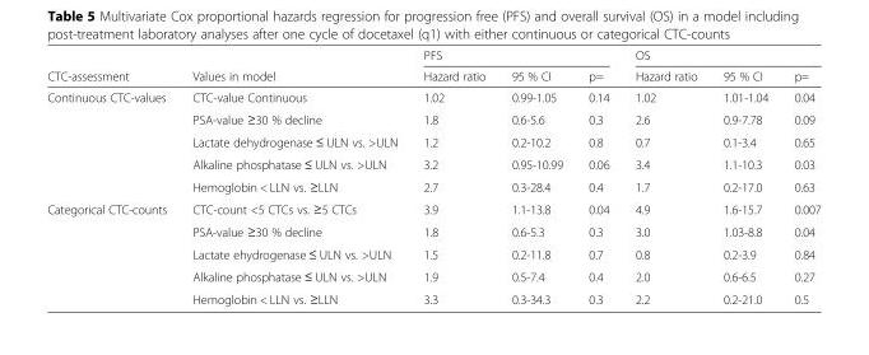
<table><thead><tr><td rowspan="2">CTC-assessment</td><td rowspan="2">Values in model</td><td colspan="3">PFS</td><td colspan="3">OS</td></tr><tr><td>Hazard ratio</td><td>95 % CI</td><td>p=</td><td>Hazard ratio</td><td>95 % CI</td><td>p=</td></tr></thead><tbody><tr><td rowspan="5">Continuous CTC-values</td><td>CTC-value Continuous</td><td>1.02</td><td>0.99-1.05</td><td>0.14</td><td>1.02</td><td>1.01-1.04</td><td>0.04</td></tr><tr><td>PSA-value ≥30 % decline</td><td>1.8</td><td>0.6-5.6</td><td>0.3</td><td>2.6</td><td>0.9-7.78</td><td>0.09</td></tr><tr><td>Lactate dehydrogenase ≤ ULN vs. &gt;ULN</td><td>1.2</td><td>0.2-10.2</td><td>0.8</td><td>0.7</td><td>0.1-3.4</td><td>0.65</td></tr><tr><td>Alkaline phosphatase ≤ ULN vs. &gt;ULN</td><td>3.2</td><td>0.95-10.99</td><td>0.06</td><td>3.4</td><td>1.1-10.3</td><td>0.03</td></tr><tr><td>Hemoglobin &lt; LLN vs. ≥LLN</td><td>2.7</td><td>0.3-28.4</td><td>0.4</td><td>1.7</td><td>0.2-17.0</td><td>0.63</td></tr><tr><td rowspan="5">Categorical CTC-counts</td><td>CTC-count &lt;5 CTCs vs. ≥5 CTCs</td><td>3.9</td><td>1.1-13.8</td><td>0.04</td><td>4.9</td><td>1.6-15.7</td><td>0.007</td></tr><tr><td>PSA-value ≥30 % decline</td><td>1.8</td><td>0.6-5.3</td><td>0.3</td><td>3.0</td><td>1.03-8.8</td><td>0.04</td></tr><tr><td>Lactate ehydrogenase ≤ ULN vs. &gt;ULN</td><td>1.5</td><td>0.2-11.8</td><td>0.7</td><td>0.8</td><td>0.2-3.9</td><td>0.84</td></tr><tr><td>Alkaline phosphatase ≤ ULN vs. &gt;ULN</td><td>1.9</td><td>0.5-7.4</td><td>0.4</td><td>2.0</td><td>0.6-6.5</td><td>0.27</td></tr><tr><td>Hemoglobin &lt; LLN vs. ≥LLN</td><td>3.3</td><td>0.3-34.3</td><td>0.3</td><td>2.2</td><td>0.2-21.0</td><td>0.5</td></tr></tbody></table>